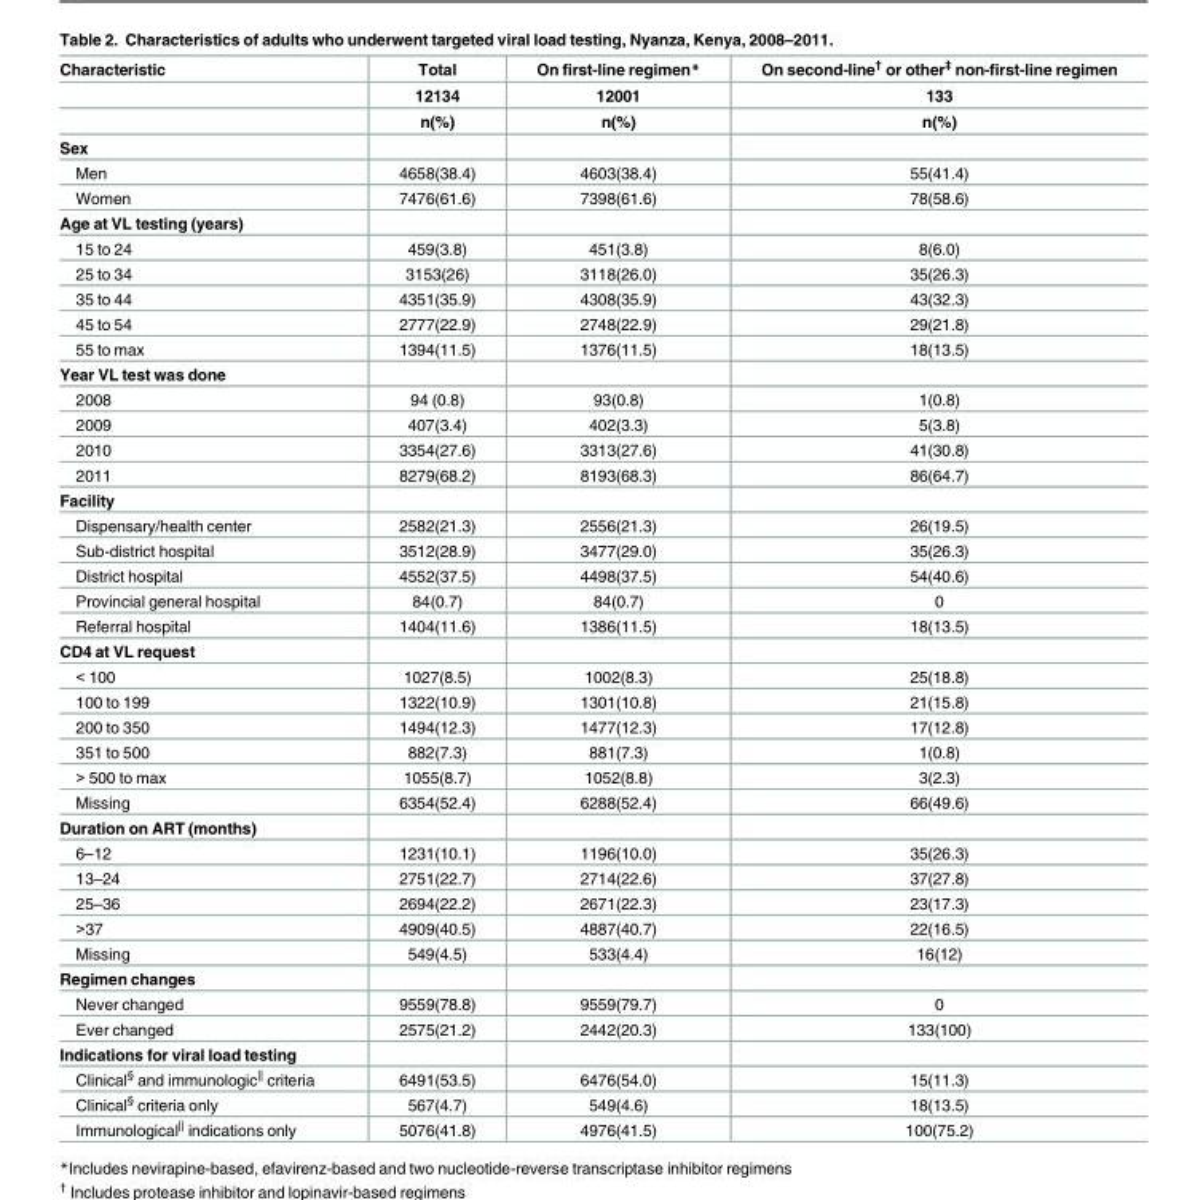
<table><thead><tr><td rowspan="3">Characteristic</td><td rowspan="3">Total 12134 n(%)</td><td rowspan="3">On first-line regimen* 12001 n(%)</td><td rowspan="3">On second-line<sup>†</sup> or other<sup>‡</sup> non-first-line regimen 133 n(%)</td></tr><tr></tr><tr></tr></thead><tbody><tr><td colspan="4">Sex</td></tr><tr><td>Men</td><td>4658(38.4)</td><td>4603(38.4)</td><td>55(41.4)</td></tr><tr><td>Women</td><td>7476(61.6)</td><td>7398(61.6)</td><td>78(58.6)</td></tr><tr><td colspan="4">Age at VL testing (years)</td></tr><tr><td>15 to 24</td><td>459(3.8)</td><td>451(3.8)</td><td>8(6.0)</td></tr><tr><td>25 to 34</td><td>3153(26)</td><td>3118(26.0)</td><td>35(26.3)</td></tr><tr><td>35 to 44</td><td>4351(35.9)</td><td>4308(35.9)</td><td>43(32.3)</td></tr><tr><td>45 to 54</td><td>2777(22.9)</td><td>2748(22.9)</td><td>29(21.8)</td></tr><tr><td>55 to max</td><td>1394(11.5)</td><td>1376(11.5)</td><td>18(13.5)</td></tr><tr><td colspan="4">Year VL test was done</td></tr><tr><td>2008</td><td>94 (0.8)</td><td>93(0.8)</td><td>1(0.8)</td></tr><tr><td>2009</td><td>407(3.4)</td><td>402(3.3)</td><td>5(3.8)</td></tr><tr><td>2010</td><td>3354(27.6)</td><td>3313(27.6)</td><td>41(30.8)</td></tr><tr><td>2011</td><td>8279(68.2)</td><td>8193(68.3)</td><td>86(64.7)</td></tr><tr><td colspan="4">Facility</td></tr><tr><td>Dispensary/health center</td><td>2582(21.3)</td><td>2556(21.3)</td><td>26(19.5)</td></tr><tr><td>Sub-district hospital</td><td>3512(28.9)</td><td>3477(29.0)</td><td>35(26.3)</td></tr><tr><td>District hospital</td><td>4552(37.5)</td><td>4498(37.5)</td><td>54(40.6)</td></tr><tr><td>Provincial general hospital</td><td>84(0.7)</td><td>84(0.7)</td><td>0</td></tr><tr><td>Referral hospital</td><td>1404(11.6)</td><td>1386(11.5)</td><td>18(13.5)</td></tr><tr><td colspan="4">CD4 at VL request</td></tr><tr><td>&lt; 100</td><td>1027(8.5)</td><td>1002(8.3)</td><td>25(18.8)</td></tr><tr><td>100 to 199</td><td>1322(10.9)</td><td>1301(10.8)</td><td>21(15.8)</td></tr><tr><td>200 to 350</td><td>1494(12.3)</td><td>1477(12.3)</td><td>17(12.8)</td></tr><tr><td>351 to 500</td><td>882(7.3)</td><td>881(7.3)</td><td>1(0.8)</td></tr><tr><td>&gt; 500 to max</td><td>1055(8.7)</td><td>1052(8.8)</td><td>3(2.3)</td></tr><tr><td>Missing</td><td>6354(52.4)</td><td>6288(52.4)</td><td>66(49.6)</td></tr><tr><td colspan="4">Duration on ART (months)</td></tr><tr><td>6–12</td><td>1231(10.1)</td><td>1196(10.0)</td><td>35(26.3)</td></tr><tr><td>13–24</td><td>2751(22.7)</td><td>2714(22.6)</td><td>37(27.8)</td></tr><tr><td>25–36</td><td>2694(22.2)</td><td>2671(22.3)</td><td>23(17.3)</td></tr><tr><td>&gt;37</td><td>4909(40.5)</td><td>4887(40.7)</td><td>22(16.5)</td></tr><tr><td>Missing</td><td>549(4.5)</td><td>533(4.4)</td><td>16(12)</td></tr><tr><td colspan="4">Regimen changes</td></tr><tr><td>Never changed</td><td>9559(78.8)</td><td>9559(79.7)</td><td>0</td></tr><tr><td>Ever changed</td><td>2575(21.2)</td><td>2442(20.3)</td><td>133(100)</td></tr><tr><td colspan="4">Indications for viral load testing</td></tr><tr><td>Clinical<sup>§</sup> and immunologic<sup>||</sup> criteria</td><td>6491(53.5)</td><td>6476(54.0)</td><td>15(11.3)</td></tr><tr><td>Clinical<sup>§</sup> criteria only</td><td>567(4.7)</td><td>549(4.6)</td><td>18(13.5)</td></tr><tr><td>Immunological<sup>||</sup> indications only</td><td>5076(41.8)</td><td>4976(41.5)</td><td>100(75.2)</td></tr></tbody></table>